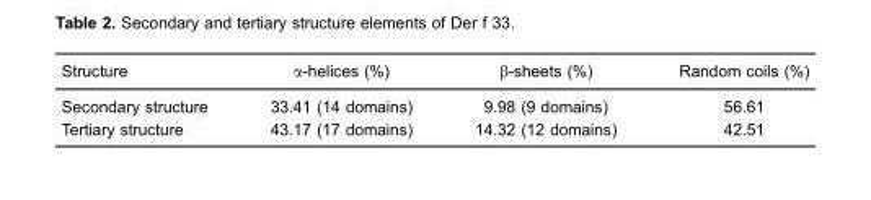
<table><thead><tr><td>Structure</td><td>α-helices (%)</td><td>β-sheets (%)</td><td>Random coils (%)</td></tr></thead><tbody><tr><td>Secondary structure</td><td>33.41 (14 domains)</td><td>9.98 (9 domains)</td><td>56.61</td></tr><tr><td>Tertiary structure</td><td>43.17 (17 domains)</td><td>14.32 (12 domains)</td><td>42.51</td></tr></tbody></table>